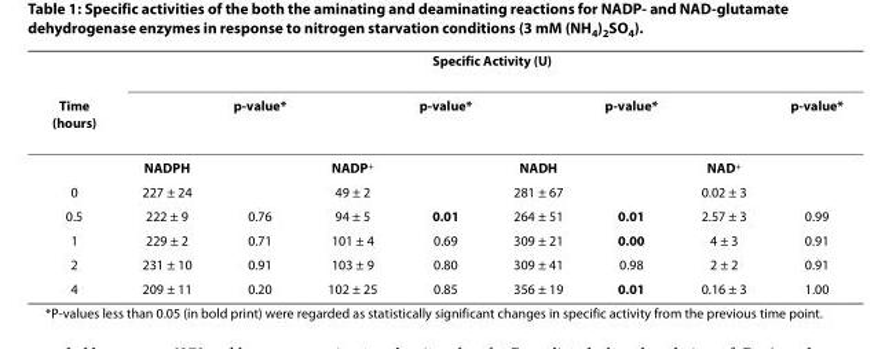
<table><thead><tr><td rowspan="2">Time (hours)</td><td colspan="8">Specific Activity (U)</td></tr><tr><td></td><td>p-value*</td><td></td><td>p-value*</td><td></td><td>p-value*</td><td></td><td>p-value*</td></tr></thead><tbody><tr><td></td><td>NADPH</td><td></td><td>NADP<sup>+</sup></td><td></td><td>NADH</td><td></td><td>NAD<sup>+</sup></td><td></td></tr><tr><td>0</td><td>227 ± 24</td><td></td><td>49 ± 2</td><td></td><td>281 ± 67</td><td></td><td>0.02 ± 3</td><td></td></tr><tr><td>0.5</td><td>222 ± 9</td><td>0.76</td><td>94 ± 5</td><td>0.01</td><td>264 ± 51</td><td>0.01</td><td>2.57 ± 3</td><td>0.99</td></tr><tr><td>1</td><td>229 ± 2</td><td>0.71</td><td>101 ± 4</td><td>0.69</td><td>309 ± 21</td><td>0.00</td><td>4 ± 3</td><td>0.91</td></tr><tr><td>2</td><td>231 ± 10</td><td>0.91</td><td>103 ± 9</td><td>0.80</td><td>309 ± 41</td><td>0.98</td><td>2 ± 2</td><td>0.91</td></tr><tr><td>4</td><td>209 ± 11</td><td>0.20</td><td>102 ± 25</td><td>0.85</td><td>356 ± 19</td><td>0.01</td><td>0.16 ± 3</td><td>1.00</td></tr></tbody></table>